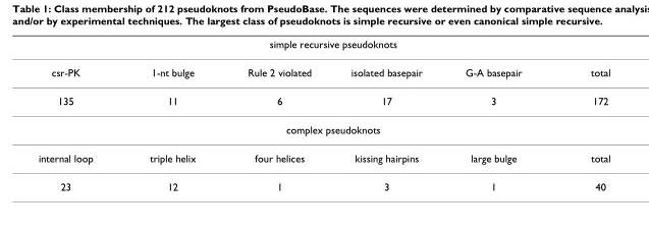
<table><thead><tr><td colspan="6">simple recursive pseudoknots</td></tr><tr><td>csr-PK</td><td>1-nt bulge</td><td>Rule 2 violated</td><td>isolated basepair</td><td>G-A basepair</td><td>total</td></tr></thead><tbody><tr><td>135</td><td>11</td><td>6</td><td>17</td><td>3</td><td>172</td></tr><tr><td colspan="6">complex pseudoknots</td></tr><tr><td>internal loop</td><td>triple helix</td><td>four helices</td><td>kissing hairpins</td><td>large bulge</td><td>total</td></tr><tr><td>23</td><td>12</td><td>1</td><td>3</td><td>1</td><td>40</td></tr></tbody></table>